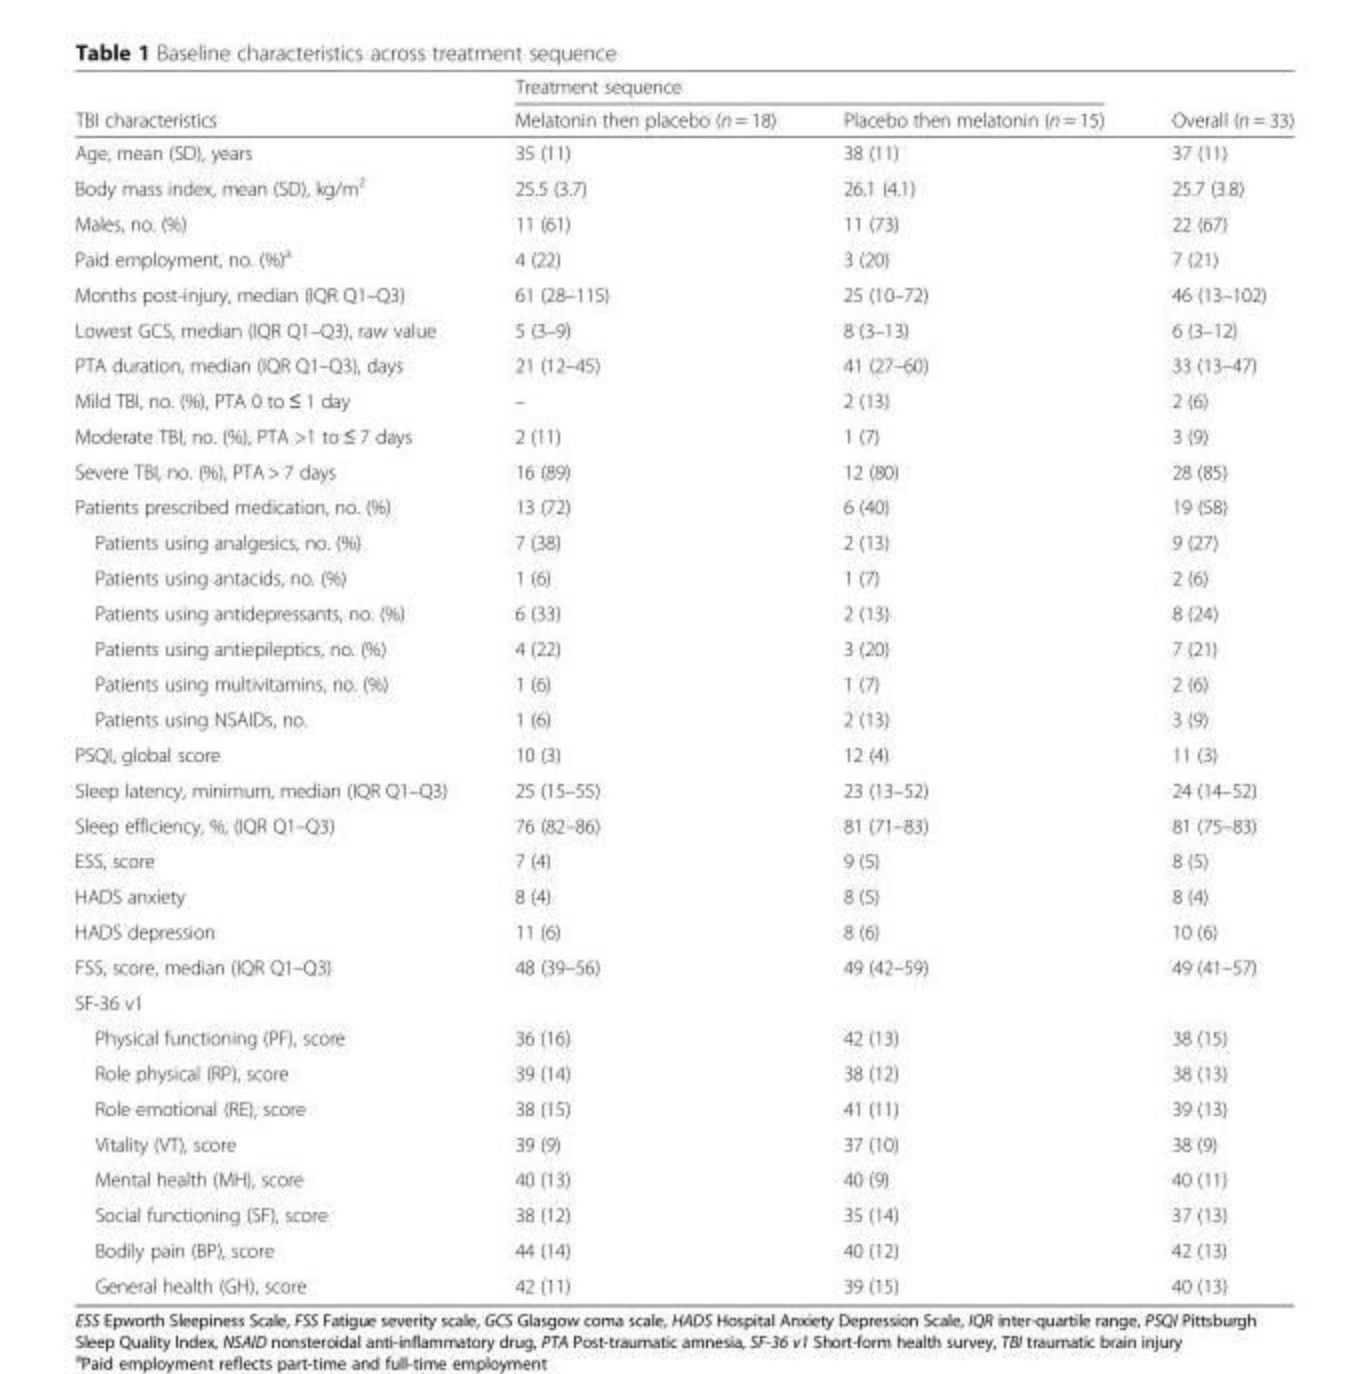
<table><thead><tr><td rowspan="2">TBI characteristics</td><td colspan="2">Treatment sequence</td><td rowspan="2">Overall (n = 33)</td></tr><tr><td>Melatonin then placebo (n = 18)</td><td>Placebo then melatonin (n = 15)</td></tr></thead><tbody><tr><td>Age, mean (SD), years</td><td>35 (11)</td><td>38 (11)</td><td>37 (11)</td></tr><tr><td>Body mass index, mean (SD), kg/m<sup>2</sup></td><td>25.5 (3.7)</td><td>26.1 (4.1)</td><td>25.7 (3.8)</td></tr><tr><td>Males, no. (%)</td><td>11 (61)</td><td>11 (73)</td><td>22 (67)</td></tr><tr><td>Paid employment, no. (%)<sup>a</sup></td><td>4 (22)</td><td>3 (20)</td><td>7 (21)</td></tr><tr><td>Months post-injury, median (IQR Q1–Q3)</td><td>61 (28–115)</td><td>25 (10–72)</td><td>46 (13–102)</td></tr><tr><td>Lowest GCS, median (IQR Q1–Q3), raw value</td><td>5 (3–9)</td><td>8 (3–13)</td><td>6 (3–12)</td></tr><tr><td>PTA duration, median (IQR Q1–Q3), days</td><td>21 (12–45)</td><td>41 (27–60)</td><td>33 (13–47)</td></tr><tr><td>Mild TBI, no. (%), PTA 0 to ≤ 1 day</td><td>–</td><td>2 (13)</td><td>2 (6)</td></tr><tr><td>Moderate TBI, no. (%), PTA &gt;1 to ≤ 7 days</td><td>2 (11)</td><td>1 (7)</td><td>3 (9)</td></tr><tr><td>Severe TBI, no. (%), PTA &gt; 7 days</td><td>16 (89)</td><td>12 (80)</td><td>28 (85)</td></tr><tr><td>Patients prescribed medication, no. (%)</td><td>13 (72)</td><td>6 (40)</td><td>19 (58)</td></tr><tr><td>Patients using analgesics, no. (%)</td><td>7 (38)</td><td>2 (13)</td><td>9 (27)</td></tr><tr><td>Patients using antacids, no. (%)</td><td>1 (6)</td><td>1 (7)</td><td>2 (6)</td></tr><tr><td>Patients using antidepressants, no. (%)</td><td>6 (33)</td><td>2 (13)</td><td>8 (24)</td></tr><tr><td>Patients using antiepileptics, no. (%)</td><td>4 (22)</td><td>3 (20)</td><td>7 (21)</td></tr><tr><td>Patients using multivitamins, no. (%)</td><td>1 (6)</td><td>1 (7)</td><td>2 (6)</td></tr><tr><td>Patients using NSAIDs, no.</td><td>1 (6)</td><td>2 (13)</td><td>3 (9)</td></tr><tr><td>PSQI, global score</td><td>10 (3)</td><td>12 (4)</td><td>11 (3)</td></tr><tr><td>Sleep latency, minimum, median (IQR Q1–Q3)</td><td>25 (15–55)</td><td>23 (13–52)</td><td>24 (14–52)</td></tr><tr><td>Sleep efficiency, %, (IQR Q1–Q3)</td><td>76 (82–86)</td><td>81 (71–83)</td><td>81 (75–83)</td></tr><tr><td>ESS, score</td><td>7 (4)</td><td>9 (5)</td><td>8 (5)</td></tr><tr><td>HADS anxiety</td><td>8 (4)</td><td>8 (5)</td><td>8 (4)</td></tr><tr><td>HADS depression</td><td>11 (6)</td><td>8 (6)</td><td>10 (6)</td></tr><tr><td>FSS, score, median (IQR Q1–Q3)</td><td>48 (39–56)</td><td>49 (42–59)</td><td>49 (41–57)</td></tr><tr><td colspan="4">SF-36 v1</td></tr><tr><td>Physical functioning (PF), score</td><td>36 (16)</td><td>42 (13)</td><td>38 (15)</td></tr><tr><td>Role physical (RP), score</td><td>39 (14)</td><td>38 (12)</td><td>38 (13)</td></tr><tr><td>Role emotional (RE), score</td><td>38 (15)</td><td>41 (11)</td><td>39 (13)</td></tr><tr><td>Vitality (VT), score</td><td>39 (9)</td><td>37 (10)</td><td>38 (9)</td></tr><tr><td>Mental health (MH), score</td><td>40 (13)</td><td>40 (9)</td><td>40 (11)</td></tr><tr><td>Social functioning (SF), score</td><td>38 (12)</td><td>35 (14)</td><td>37 (13)</td></tr><tr><td>Bodily pain (BP), score</td><td>44 (14)</td><td>40 (12)</td><td>42 (13)</td></tr><tr><td>General health (GH), score</td><td>42 (11)</td><td>39 (15)</td><td>40 (13)</td></tr></tbody></table>